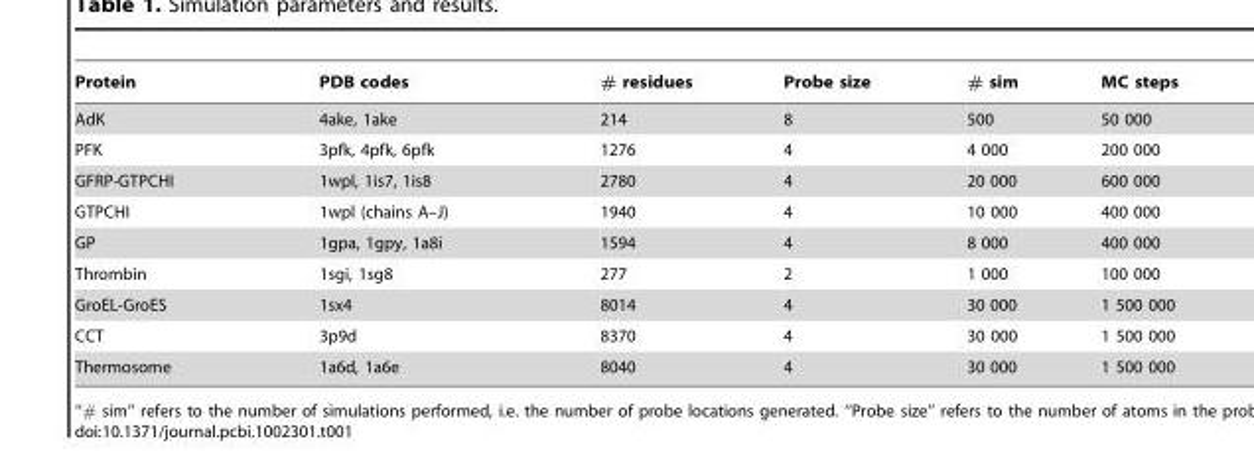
<table><thead><tr><td>Protein</td><td>PDB codes</td><td># residues</td><td>Probe size</td><td># sim</td><td>MC steps</td></tr></thead><tbody><tr><td>AdK</td><td>4ake, 1ake</td><td>214</td><td>8</td><td>500</td><td>50 000</td></tr><tr><td>PFK</td><td>3pfk, 4pfk, 6pfk</td><td>1276</td><td>4</td><td>4 000</td><td>200 000</td></tr><tr><td>GFRP-GTPCHI</td><td>1wpl, 1is7, 1is8</td><td>2780</td><td>4</td><td>20 000</td><td>600 000</td></tr><tr><td>GTPCHI</td><td>1wpl (chains A–J)</td><td>1940</td><td>4</td><td>10 000</td><td>400 000</td></tr><tr><td>GP</td><td>1gpa, 1gpy, 1a8i</td><td>1594</td><td>4</td><td>8 000</td><td>400 000</td></tr><tr><td>Thrombin</td><td>1sgi, 1sg8</td><td>277</td><td>2</td><td>1 000</td><td>100 000</td></tr><tr><td>GroEL-GroES</td><td>1sx4</td><td>8014</td><td>4</td><td>30 000</td><td>1 500 000</td></tr><tr><td>CCT</td><td>3p9d</td><td>8370</td><td>4</td><td>30 000</td><td>1 500 000</td></tr><tr><td>Thermosome</td><td>1a6d, 1a6e</td><td>8040</td><td>4</td><td>30 000</td><td>1 500 000</td></tr></tbody></table>